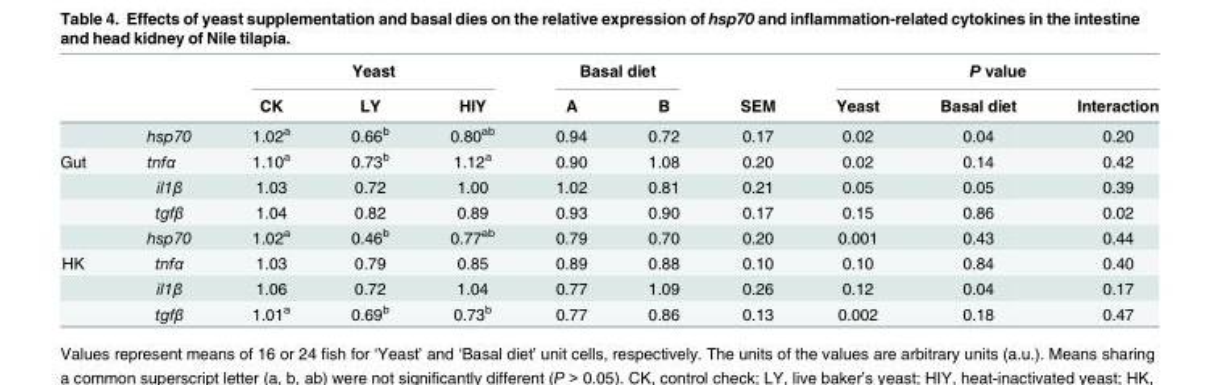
<table><thead><tr><td rowspan="2"></td><td rowspan="2"></td><td colspan="3">Yeast</td><td colspan="2">Basal diet</td><td rowspan="2">SEM</td><td colspan="3">P value</td></tr><tr><td>CK</td><td>LY</td><td>HIY</td><td>A</td><td>B</td><td>Yeast</td><td>Basal diet</td><td>Interaction</td></tr></thead><tbody><tr><td></td><td>hsp70</td><td>1.02<sup>a</sup></td><td>0.66<sup>b</sup></td><td>0.80<sup>ab</sup></td><td>0.94</td><td>0.72</td><td>0.17</td><td>0.02</td><td>0.04</td><td>0.20</td></tr><tr><td rowspan="4">Gut</td><td>tnfα</td><td>1.10<sup>a</sup></td><td>0.73<sup>b</sup></td><td>1.12<sup>a</sup></td><td>0.90</td><td>1.08</td><td>0.20</td><td>0.02</td><td>0.14</td><td>0.42</td></tr><tr><td>il1β</td><td>1.03</td><td>0.72</td><td>1.00</td><td>1.02</td><td>0.81</td><td>0.21</td><td>0.05</td><td>0.05</td><td>0.39</td></tr><tr><td>tgfβ</td><td>1.04</td><td>0.82</td><td>0.89</td><td>0.93</td><td>0.90</td><td>0.17</td><td>0.15</td><td>0.86</td><td>0.02</td></tr><tr><td>hsp70</td><td>1.02<sup>a</sup></td><td>0.46<sup>b</sup></td><td>0.77<sup>ab</sup></td><td>0.79</td><td>0.70</td><td>0.20</td><td>0.001</td><td>0.43</td><td>0.44</td></tr><tr><td rowspan="3">HK</td><td>tnfα</td><td>1.03</td><td>0.79</td><td>0.85</td><td>0.89</td><td>0.88</td><td>0.10</td><td>0.10</td><td>0.84</td><td>0.40</td></tr><tr><td>il1β</td><td>1.06</td><td>0.72</td><td>1.04</td><td>0.77</td><td>1.09</td><td>0.26</td><td>0.12</td><td>0.04</td><td>0.17</td></tr><tr><td>tgfβ</td><td>1.01<sup>a</sup></td><td>0.69<sup>b</sup></td><td>0.73<sup>b</sup></td><td>0.77</td><td>0.86</td><td>0.13</td><td>0.002</td><td>0.18</td><td>0.47</td></tr></tbody></table>